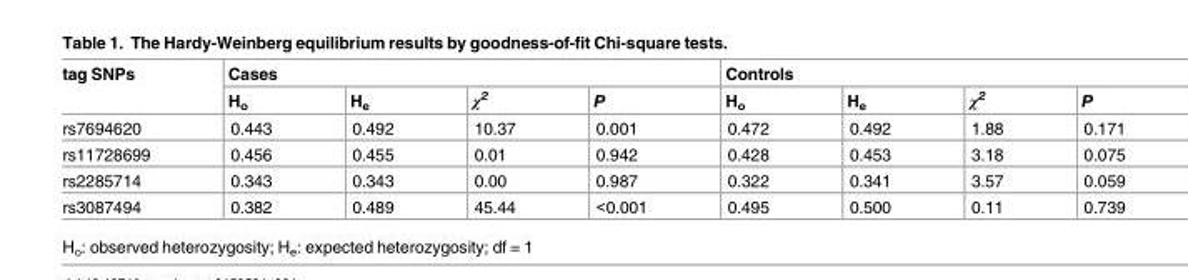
<table><thead><tr><td rowspan="2">tag SNPs</td><td colspan="4">Cases</td><td colspan="4">Controls</td></tr><tr><td>H<sub>o</sub></td><td>H<sub>e</sub></td><td>χ<sup>2</sup></td><td>P</td><td>H<sub>o</sub></td><td>H<sub>e</sub></td><td>χ<sup>2</sup></td><td>P</td></tr></thead><tbody><tr><td>rs7694620</td><td>0.443</td><td>0.492</td><td>10.37</td><td>0.001</td><td>0.472</td><td>0.492</td><td>1.88</td><td>0.171</td></tr><tr><td>rs11728699</td><td>0.456</td><td>0.455</td><td>0.01</td><td>0.942</td><td>0.428</td><td>0.453</td><td>3.18</td><td>0.075</td></tr><tr><td>rs2285714</td><td>0.343</td><td>0.343</td><td>0.00</td><td>0.987</td><td>0.322</td><td>0.341</td><td>3.57</td><td>0.059</td></tr><tr><td>rs3087494</td><td>0.382</td><td>0.489</td><td>45.44</td><td>&lt;0.001</td><td>0.495</td><td>0.500</td><td>0.11</td><td>0.739</td></tr></tbody></table>